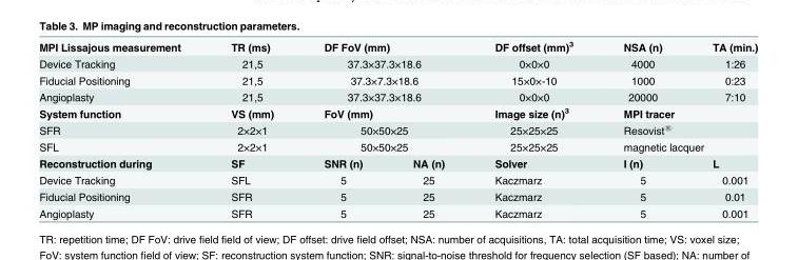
<table><tbody><tr><td>MPI Lissajous measurement</td><td>TR (ms)</td><td colspan="2">DF FoV (mm)</td><td>DF offset (mm)<sup>3</sup></td><td>NSA (n)</td><td>TA (min.)</td></tr><tr><td>Device Tracking</td><td>21,5</td><td colspan="2">37.3×37.3×18.6</td><td>0×0×0</td><td>4000</td><td>1:26</td></tr><tr><td>Fiducial Positioning</td><td>21,5</td><td colspan="2">37.3×7.3×18.6</td><td>15×0×-10</td><td>1000</td><td>0:23</td></tr><tr><td>Angioplasty</td><td>21,5</td><td colspan="2">37.3×37.3×18.6</td><td>0×0×0</td><td>20000</td><td>7:10</td></tr><tr><td>System function</td><td>VS (mm)</td><td colspan="2">FoV (mm)</td><td>Image size (n)<sup>3</sup></td><td colspan="2">MPI tracer</td></tr><tr><td>SFR</td><td>2×2×1</td><td colspan="2">50×50×25</td><td>25×25×25</td><td colspan="2">Resovist<sup>®</sup></td></tr><tr><td>SFL</td><td>2×2×1</td><td colspan="2">50×50×25</td><td>25×25×25</td><td colspan="2">magnetic lacquer</td></tr><tr><td>Reconstruction during</td><td>SF</td><td>SNR (n)</td><td>NA (n)</td><td>Solver</td><td>I (n)</td><td>L</td></tr><tr><td>Device Tracking</td><td>SFL</td><td>5</td><td>25</td><td>Kaczmarz</td><td>5</td><td>0.001</td></tr><tr><td>Fiducial Positioning</td><td>SFR</td><td>5</td><td>25</td><td>Kaczmarz</td><td>5</td><td>0.01</td></tr><tr><td>Angioplasty</td><td>SFR</td><td>5</td><td>25</td><td>Kaczmarz</td><td>5</td><td>0.001</td></tr></tbody></table>